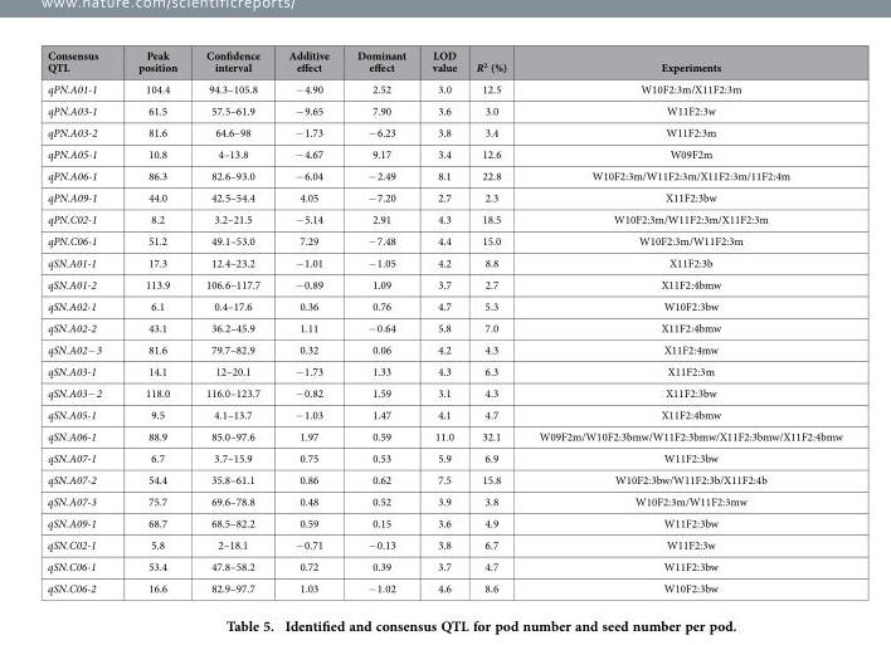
<table><thead><tr><td>Consensus QTL</td><td>Peak position</td><td>Confidence interval</td><td>Additive effect</td><td>Dominant effect</td><td>LOD value</td><td>R<sup>2</sup> (%)</td><td>Experiments</td></tr></thead><tbody><tr><td>qPN.A01-1</td><td>104.4</td><td>94.3–105.8</td><td>− 4.90</td><td>2.52</td><td>3.0</td><td>12.5</td><td>W10F2:3m/X11F2:3m</td></tr><tr><td>qPN.A03-1</td><td>61.5</td><td>57.5–61.9</td><td>− 9.65</td><td>7.90</td><td>3.6</td><td>3.0</td><td>W11F2:3w</td></tr><tr><td>qPN.A03-2</td><td>81.6</td><td>64.6–98</td><td>− 1.73</td><td>− 6.23</td><td>3.8</td><td>3.4</td><td>W11F2:3m</td></tr><tr><td>qPN.A05-1</td><td>10.8</td><td>4–13.8</td><td>− 4.67</td><td>9.17</td><td>3.4</td><td>12.6</td><td>W09F2m</td></tr><tr><td>qPN.A06-1</td><td>86.3</td><td>82.6–93.0</td><td>− 6.04</td><td>− 2.49</td><td>8.1</td><td>22.8</td><td>W10F2:3m/W11F2:3m/X11F2:3m/11F2:4m</td></tr><tr><td>qPN.A09-1</td><td>44.0</td><td>42.5–54.4</td><td>4.05</td><td>− 7.20</td><td>2.7</td><td>2.3</td><td>X11F2:3bw</td></tr><tr><td>qPN.C02-1</td><td>8.2</td><td>3.2–21.5</td><td>− 5.14</td><td>2.91</td><td>4.3</td><td>18.5</td><td>W10F2:3m/W11F2:3m/X11F2:3m</td></tr><tr><td>qPN.C06-1</td><td>51.2</td><td>49.1–53.0</td><td>7.29</td><td>− 7.48</td><td>4.4</td><td>15.0</td><td>W10F2:3m/W11F2:3m</td></tr><tr><td>qSN.A01-1</td><td>17.3</td><td>12.4–23.2</td><td>− 1.01</td><td>− 1.05</td><td>4.2</td><td>8.8</td><td>X11F2:3b</td></tr><tr><td>qSN.A01-2</td><td>113.9</td><td>106.6–117.7</td><td>− 0.89</td><td>1.09</td><td>3.7</td><td>2.7</td><td>X11F2:4bmw</td></tr><tr><td>qSN.A02-1</td><td>6.1</td><td>0.4–17.6</td><td>0.36</td><td>0.76</td><td>4.7</td><td>5.3</td><td>W10F2:3bw</td></tr><tr><td>qSN.A02-2</td><td>43.1</td><td>36.2–45.9</td><td>1.11</td><td>− 0.64</td><td>5.8</td><td>7.0</td><td>X11F2:4bmw</td></tr><tr><td>qSN.A02− 3</td><td>81.6</td><td>79.7–82.9</td><td>0.32</td><td>0.06</td><td>4.2</td><td>4.3</td><td>X11F2:4mw</td></tr><tr><td>qSN.A03-1</td><td>14.1</td><td>12–20.1</td><td>− 1.73</td><td>1.33</td><td>4.3</td><td>6.3</td><td>X11F2:3m</td></tr><tr><td>qSN.A03− 2</td><td>118.0</td><td>116.0–123.7</td><td>− 0.82</td><td>1.59</td><td>3.1</td><td>4.3</td><td>X11F2:3bw</td></tr><tr><td>qSN.A05-1</td><td>9.5</td><td>4.1–13.7</td><td>− 1.03</td><td>1.47</td><td>4.1</td><td>4.7</td><td>X11F2:4bmw</td></tr><tr><td>qSN.A06-1</td><td>88.9</td><td>85.0–97.6</td><td>1.97</td><td>0.59</td><td>11.0</td><td>32.1</td><td>W09F2m/W10F2:3bmw/W11F2:3bmw/X11F2:3bmw/X11F2:4bmw</td></tr><tr><td>qSN.A07-1</td><td>6.7</td><td>3.7–15.9</td><td>0.75</td><td>0.53</td><td>5.9</td><td>6.9</td><td>W11F2:3bw</td></tr><tr><td>qSN.A07-2</td><td>54.4</td><td>35.8–61.1</td><td>0.86</td><td>0.62</td><td>7.5</td><td>15.8</td><td>W10F2:3bw/W11F2:3b/X11F2:4b</td></tr><tr><td>qSN.A07-3</td><td>75.7</td><td>69.6–78.8</td><td>0.48</td><td>0.52</td><td>3.9</td><td>3.8</td><td>W10F2:3m/W11F2:3mw</td></tr><tr><td>qSN.A09-1</td><td>68.7</td><td>68.5–82.2</td><td>0.59</td><td>0.15</td><td>3.6</td><td>4.9</td><td>W11F2:3bw</td></tr><tr><td>qSN.C02-1</td><td>5.8</td><td>2–18.1</td><td>− 0.71</td><td>− 0.13</td><td>3.8</td><td>6.7</td><td>W11F2:3w</td></tr><tr><td>qSN.C06-1</td><td>53.4</td><td>47.8–58.2</td><td>0.72</td><td>0.39</td><td>3.7</td><td>4.7</td><td>W11F2:3bw</td></tr><tr><td>qSN.C06-2</td><td>16.6</td><td>82.9–97.7</td><td>1.03</td><td>− 1.02</td><td>4.6</td><td>8.6</td><td>W10F2:3bw</td></tr></tbody></table>